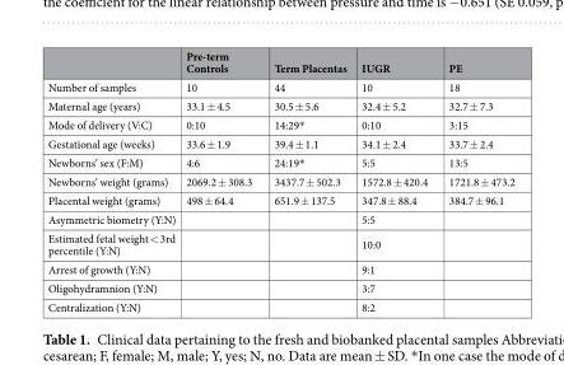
<table><thead><tr><td></td><td>Pre-term Controls</td><td>Term Placentas</td><td>IUGR</td><td>PE</td></tr></thead><tbody><tr><td>Number of samples</td><td>10</td><td>44</td><td>10</td><td>18</td></tr><tr><td>Maternal age (years)</td><td>33.1 ± 4.5</td><td>30.5 ± 5.6</td><td>32.4 ± 5.2</td><td>32.7 ± 7.3</td></tr><tr><td>Mode of delivery (V:C)</td><td>0:10</td><td>14:29*</td><td>0:10</td><td>3:15</td></tr><tr><td>Gestational age (weeks)</td><td>33.6 ± 1.9</td><td>39.4 ± 1.1</td><td>34.1 ± 2.4</td><td>33.7 ± 2.4</td></tr><tr><td>Newborns’ sex (F:M)</td><td>4:6</td><td>24:19*</td><td>5:5</td><td>13:5</td></tr><tr><td>Newborns’ weight (grams)</td><td>2069.2 ± 308.3</td><td>3437.7 ± 502.3</td><td>1572.8 ± 420.4</td><td>1721.8 ± 473.2</td></tr><tr><td>Placental weight (grams)</td><td>498 ± 64.4</td><td>651.9 ± 137.5</td><td>347.8 ± 88.4</td><td>384.7 ± 96.1</td></tr><tr><td>Asymmetric biometry (Y:N)</td><td></td><td></td><td>5:5</td><td></td></tr><tr><td>Estimated fetal weight &lt; 3rd percentile (Y:N)</td><td></td><td></td><td>10:0</td><td></td></tr><tr><td>Arrest of growth (Y:N)</td><td></td><td></td><td>9:1</td><td></td></tr><tr><td>Oligohydramnion (Y:N)</td><td></td><td></td><td>3:7</td><td></td></tr><tr><td>Centralization (Y:N)</td><td></td><td></td><td>8:2</td><td></td></tr></tbody></table>